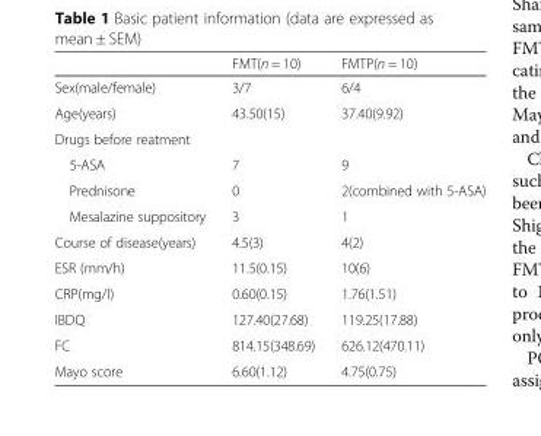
<table><thead><tr><td></td><td>FMT(n = 10)</td><td>FMTP(n = 10)</td></tr></thead><tbody><tr><td>Sex(male/female)</td><td>3/7</td><td>6/4</td></tr><tr><td>Age(years)</td><td>43.50(15)</td><td>37.40(9.92)</td></tr><tr><td colspan="3">Drugs before reatment</td></tr><tr><td>5-ASA</td><td>7</td><td>9</td></tr><tr><td>Prednisone</td><td>0</td><td>2(combined with 5-ASA)</td></tr><tr><td>Mesalazine suppository</td><td>3</td><td>1</td></tr><tr><td>Course of disease(years)</td><td>4.5(3)</td><td>4(2)</td></tr><tr><td>ESR (mm/h)</td><td>11.5(0.15)</td><td>10(6)</td></tr><tr><td>CRP(mg/l)</td><td>0.60(0.15)</td><td>1.76(1.51)</td></tr><tr><td>IBDQ</td><td>127.40(27.68)</td><td>119.25(17.88)</td></tr><tr><td>FC</td><td>814.15(348.69)</td><td>626.12(470.11)</td></tr><tr><td>Mayo score</td><td>6.60(1.12)</td><td>4.75(0.75)</td></tr></tbody></table>